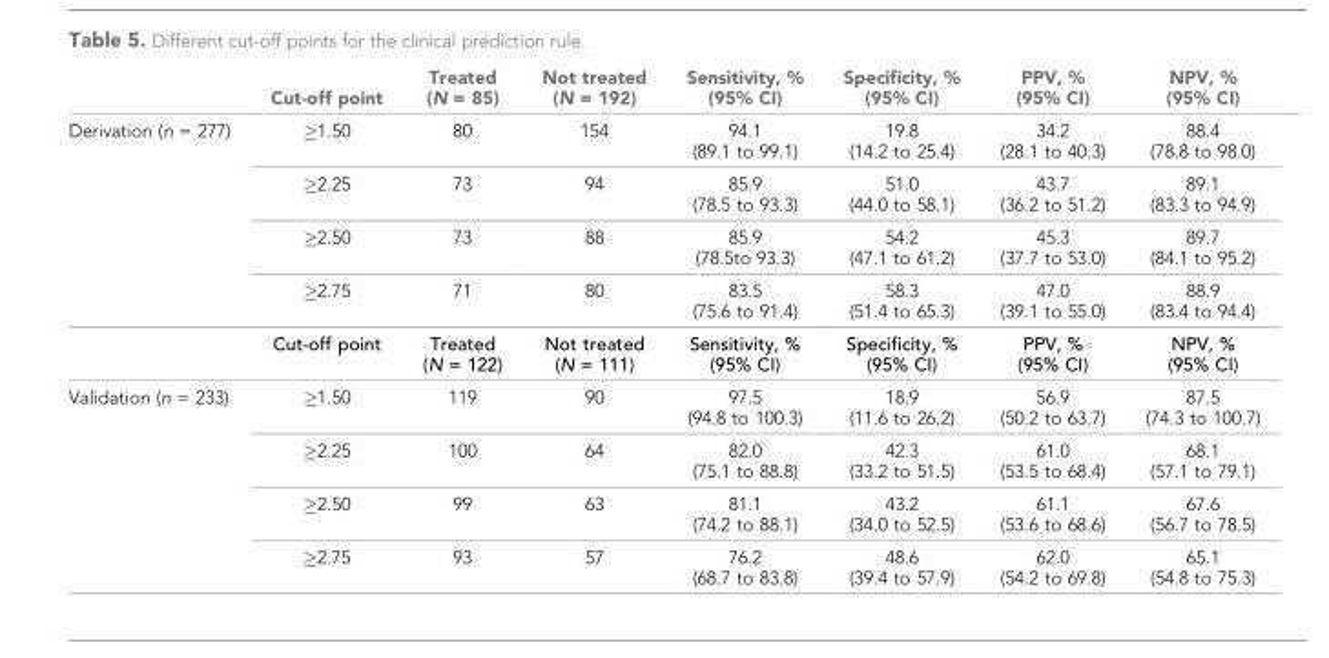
<table><thead><tr><td></td><td>Cut-off point</td><td>Treated (N = 85)</td><td>Not treated (N = 192)</td><td>Sensitivity, % (95% CI)</td><td>Specificity, % (95% CI)</td><td>PPV, % (95% CI)</td><td>NPV, % (95% CI)</td></tr></thead><tbody><tr><td rowspan="5">Derivation (n = 277)</td><td>≥1.50</td><td>80</td><td>154</td><td>94.1 (89.1 to 99.1)</td><td>19.8 (14.2 to 25.4)</td><td>34.2 (28.1 to 40.3)</td><td>88.4 (78.8 to 98.0)</td></tr><tr><td>≥2.25</td><td>73</td><td>94</td><td>85.9 (78.5 to 93.3)</td><td>51.0 (44.0 to 58.1)</td><td>43.7 (36.2 to 51.2)</td><td>89.1 (83.3 to 94.9)</td></tr><tr><td>≥2.50</td><td>73</td><td>88</td><td>85.9 (78.5to 93.3)</td><td>54.2 (47.1 to 61.2)</td><td>45.3 (37.7 to 53.0)</td><td>89.7 (84.1 to 95.2)</td></tr><tr><td>≥2.75</td><td>71</td><td>80</td><td>83.5 (75.6 to 91.4)</td><td>58.3 (51.4 to 65.3)</td><td>47.0 (39.1 to 55.0)</td><td>88.9 (83.4 to 94.4)</td></tr><tr><td>Cut-off point</td><td>Treated (N = 122)</td><td>Not treated (N = 111)</td><td>Sensitivity, % (95% CI)</td><td>Specificity, % (95% CI)</td><td>PPV, % (95% CI)</td><td>NPV, % (95% CI)</td></tr><tr><td rowspan="4">Validation (n = 233)</td><td>≥1.50</td><td>119</td><td>90</td><td>97.5 (94.8 to 100.3)</td><td>18.9 (11.6 to 26.2)</td><td>56.9 (50.2 to 63.7)</td><td>87.5 (74.3 to 100.7)</td></tr><tr><td>≥2.25</td><td>100</td><td>64</td><td>82.0 (75.1 to 88.8)</td><td>42.3 (33.2 to 51.5)</td><td>61.0 (53.5 to 68.4)</td><td>68.1 (57.1 to 79.1)</td></tr><tr><td>≥2.50</td><td>99</td><td>63</td><td>81.1 (74.2 to 88.1)</td><td>43.2 (34.0 to 52.5)</td><td>61.1 (53.6 to 68.6)</td><td>67.6 (56.7 to 78.5)</td></tr><tr><td>≥2.75</td><td>93</td><td>57</td><td>76.2 (68.7 to 83.8)</td><td>48.6 (39.4 to 57.9)</td><td>62.0 (54.2 to 69.8)</td><td>65.1 (54.8 to 75.3)</td></tr></tbody></table>